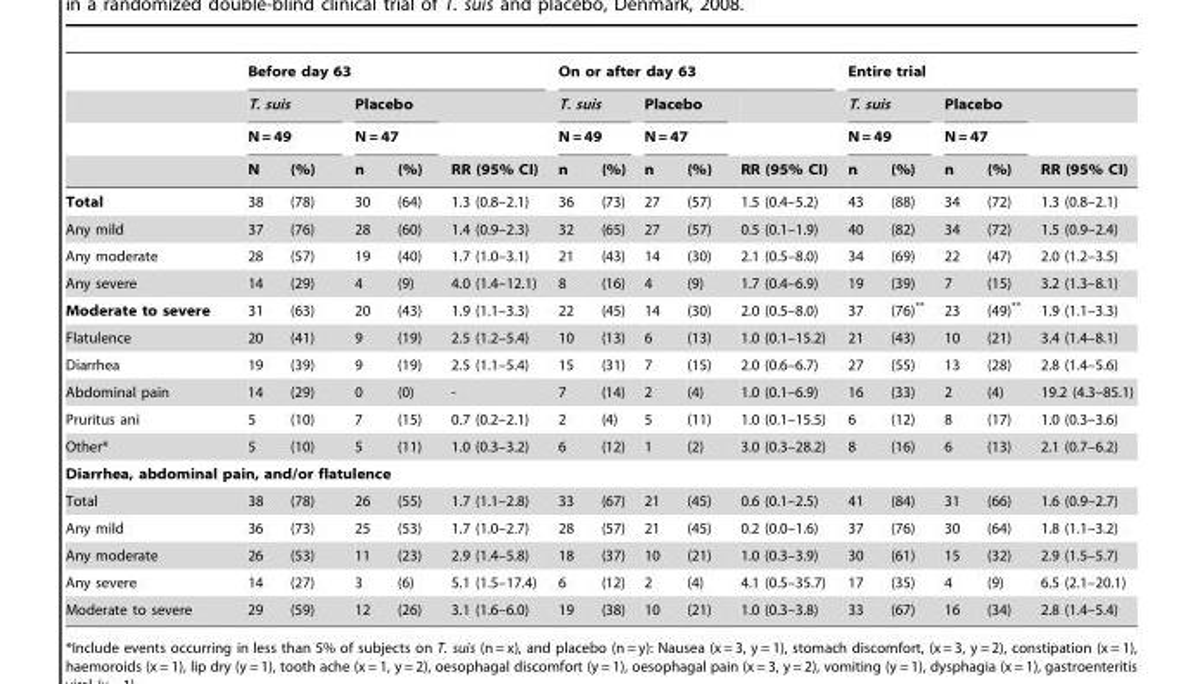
<table><thead><tr><td rowspan="4"></td><td colspan="5">Before day 63</td><td colspan="5">On or after day 63</td><td colspan="5">Entire trial</td></tr><tr><td rowspan="2" colspan="2">T. suis N = 49</td><td rowspan="2" colspan="2">Placebo N = 47</td><td rowspan="3">RR (95% CI)</td><td rowspan="2" colspan="2">T. suis N = 49</td><td rowspan="2" colspan="2">Placebo N = 47</td><td rowspan="3">RR (95% CI)</td><td rowspan="2" colspan="2">T. suis N = 49</td><td rowspan="2" colspan="2">Placebo N = 47</td><td rowspan="3">RR (95% CI)</td></tr><tr></tr><tr><td>N</td><td>(%)</td><td>n</td><td>(%)</td><td>n</td><td>(%)</td><td>n</td><td>(%)</td><td>n</td><td>(%)</td><td>n</td><td>(%)</td></tr></thead><tbody><tr><td>Total</td><td>38</td><td>(78)</td><td>30</td><td>(64)</td><td>1.3 (0.8–2.1)</td><td>36</td><td>(73)</td><td>27</td><td>(57)</td><td>1.5 (0.4–5.2)</td><td>43</td><td>(88)</td><td>34</td><td>(72)</td><td>1.3 (0.8–2.1)</td></tr><tr><td>Any mild</td><td>37</td><td>(76)</td><td>28</td><td>(60)</td><td>1.4 (0.9–2.3)</td><td>32</td><td>(65)</td><td>27</td><td>(57)</td><td>0.5 (0.1–1.9)</td><td>40</td><td>(82)</td><td>34</td><td>(72)</td><td>1.5 (0.9–2.4)</td></tr><tr><td>Any moderate</td><td>28</td><td>(57)</td><td>19</td><td>(40)</td><td>1.7 (1.0–3.1)</td><td>21</td><td>(43)</td><td>14</td><td>(30)</td><td>2.1 (0.5–8.0)</td><td>34</td><td>(69)</td><td>22</td><td>(47)</td><td>2.0 (1.2–3.5)</td></tr><tr><td>Any severe</td><td>14</td><td>(29)</td><td>4</td><td>(9)</td><td>4.0 (1.4–12.1)</td><td>8</td><td>(16)</td><td>4</td><td>(9)</td><td>1.7 (0.4–6.9)</td><td>19</td><td>(39)</td><td>7</td><td>(15)</td><td>3.2 (1.3–8.1)</td></tr><tr><td>Moderate to severe</td><td>31</td><td>(63)</td><td>20</td><td>(43)</td><td>1.9 (1.1–3.3)</td><td>22</td><td>(45)</td><td>14</td><td>(30)</td><td>2.0 (0.5–8.0)</td><td>37</td><td>(76)**</td><td>23</td><td>(49)**</td><td>1.9 (1.1–3.3)</td></tr><tr><td>Flatulence</td><td>20</td><td>(41)</td><td>9</td><td>(19)</td><td>2.5 (1.2–5.4)</td><td>10</td><td>(13)</td><td>6</td><td>(13)</td><td>1.0 (0.1–15.2)</td><td>21</td><td>(43)</td><td>10</td><td>(21)</td><td>3.4 (1.4–8.1)</td></tr><tr><td>Diarrhea</td><td>19</td><td>(39)</td><td>9</td><td>(19)</td><td>2.5 (1.1–5.4)</td><td>15</td><td>(31)</td><td>7</td><td>(15)</td><td>2.0 (0.6–6.7)</td><td>27</td><td>(55)</td><td>13</td><td>(28)</td><td>2.8 (1.4–5.6)</td></tr><tr><td>Abdominal pain</td><td>14</td><td>(29)</td><td>0</td><td>(0)</td><td>-</td><td>7</td><td>(14)</td><td>2</td><td>(4)</td><td>1.0 (0.1–6.9)</td><td>16</td><td>(33)</td><td>2</td><td>(4)</td><td>19.2 (4.3–85.1)</td></tr><tr><td>Pruritus ani</td><td>5</td><td>(10)</td><td>7</td><td>(15)</td><td>0.7 (0.2–2.1)</td><td>2</td><td>(4)</td><td>5</td><td>(11)</td><td>1.0 (0.1–15.5)</td><td>6</td><td>(12)</td><td>8</td><td>(17)</td><td>1.0 (0.3–3.6)</td></tr><tr><td>Other*</td><td>5</td><td>(10)</td><td>5</td><td>(11)</td><td>1.0 (0.3–3.2)</td><td>6</td><td>(12)</td><td>1</td><td>(2)</td><td>3.0 (0.3–28.2)</td><td>8</td><td>(16)</td><td>6</td><td>(13)</td><td>2.1 (0.7–6.2)</td></tr><tr><td colspan="16">Diarrhea, abdominal pain, and/or flatulence</td></tr><tr><td>Total</td><td>38</td><td>(78)</td><td>26</td><td>(55)</td><td>1.7 (1.1–2.8)</td><td>33</td><td>(67)</td><td>21</td><td>(45)</td><td>0.6 (0.1–2.5)</td><td>41</td><td>(84)</td><td>31</td><td>(66)</td><td>1.6 (0.9–2.7)</td></tr><tr><td>Any mild</td><td>36</td><td>(73)</td><td>25</td><td>(53)</td><td>1.7 (1.0–2.7)</td><td>28</td><td>(57)</td><td>21</td><td>(45)</td><td>0.2 (0.0–1.6)</td><td>37</td><td>(76)</td><td>30</td><td>(64)</td><td>1.8 (1.1–3.2)</td></tr><tr><td>Any moderate</td><td>26</td><td>(53)</td><td>11</td><td>(23)</td><td>2.9 (1.4–5.8)</td><td>18</td><td>(37)</td><td>10</td><td>(21)</td><td>1.0 (0.3–3.9)</td><td>30</td><td>(61)</td><td>15</td><td>(32)</td><td>2.9 (1.5–5.7)</td></tr><tr><td>Any severe</td><td>14</td><td>(27)</td><td>3</td><td>(6)</td><td>5.1 (1.5–17.4)</td><td>6</td><td>(12)</td><td>2</td><td>(4)</td><td>4.1 (0.5–35.7)</td><td>17</td><td>(35)</td><td>4</td><td>(9)</td><td>6.5 (2.1–20.1)</td></tr><tr><td>Moderate to severe</td><td>29</td><td>(59)</td><td>12</td><td>(26)</td><td>3.1 (1.6–6.0)</td><td>19</td><td>(38)</td><td>10</td><td>(21)</td><td>1.0 (0.3–3.8)</td><td>33</td><td>(67)</td><td>16</td><td>(34)</td><td>2.8 (1.4–5.4)</td></tr></tbody></table>